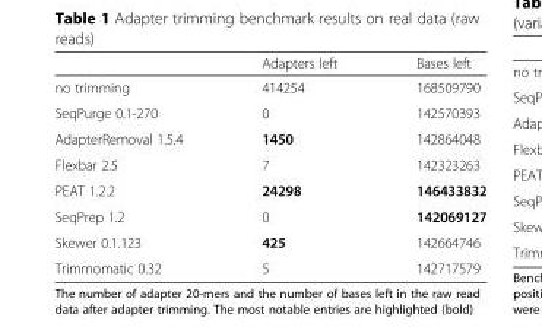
<table><thead><tr><td></td><td>Adapters left</td><td>Bases left</td></tr></thead><tbody><tr><td>no trimming</td><td>414254</td><td>168509790</td></tr><tr><td>SeqPurge 0.1-270</td><td>0</td><td>142570393</td></tr><tr><td>AdapterRemoval 1.5.4</td><td>1450</td><td>142864048</td></tr><tr><td>Flexbar 2.5</td><td>7</td><td>142323263</td></tr><tr><td>PEAT 1.2.2</td><td>24298</td><td>146433832</td></tr><tr><td>SeqPrep 1.2</td><td>0</td><td>142069127</td></tr><tr><td>Skewer 0.1.123</td><td>425</td><td>142664746</td></tr><tr><td>Trimmomatic 0.32</td><td>5</td><td>142717579</td></tr></tbody></table>